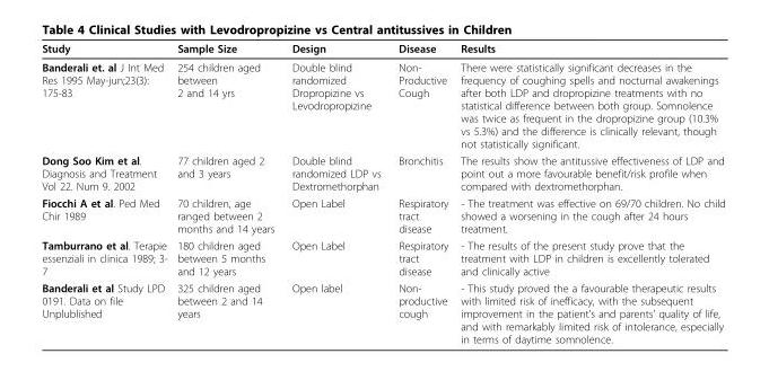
<table><thead><tr><td>Study</td><td>Sample Size</td><td>Design</td><td>Disease</td><td>Results</td></tr></thead><tbody><tr><td>Banderali et. al J Int Med Res 1995 May-jun;23(3): 175-83</td><td>254 children aged between 2 and 14 yrs</td><td>Double blind randomized Dropropizine vs Levodropropizine</td><td>Non- Productive Cough</td><td>There were statistically significant decreases in the frequency of coughing spells and nocturnal awakenings after both LDP and dropropizine treatments with no statistical difference between both group. Somnolence was twice as frequent in the dropropizine group (10.3% vs 5.3%) and the difference is clinically relevant, though not statistically significant.</td></tr><tr><td>Dong Soo Kim et al. Diagnosis and Treatment Vol 22. Num 9. 2002</td><td>77 children aged 2 and 3 years</td><td>Double blind randomized LDP vs Dextromethorphan</td><td>Bronchitis</td><td>The results show the antitussive effectiveness of LDP and point out a more favourable benefit/risk profile when compared with dextromethorphan.</td></tr><tr><td>Fiocchi A et al. Ped Med Chir 1989</td><td>70 children, age ranged between 2 months and 14 years</td><td>Open Label</td><td>Respiratory tract disease</td><td>- The treatment was effective on 69/70 children. No child showed a worsening in the cough after 24 hours treatment.</td></tr><tr><td>Tamburrano et al. Terapie essenziali in clinica 1989; 3- 7</td><td>180 children aged between 5 months and 12 years</td><td>Open Label</td><td>Respiratory tract disease</td><td>- The results of the present study prove that the treatment with LDP in children is excellently tolerated and clinically active</td></tr><tr><td>Banderali et al Study LPD 0191. Data on file Unplublished</td><td>325 children aged between 2 and 14 years</td><td>Open label</td><td>Non- productive cough</td><td>- This study proved the a favourable therapeutic results with limited risk of inefficacy, with the subsequent improvement in the patient’s and parents’ quality of life, and with remarkably limited risk of intolerance, especially in terms of daytime somnolence.</td></tr></tbody></table>